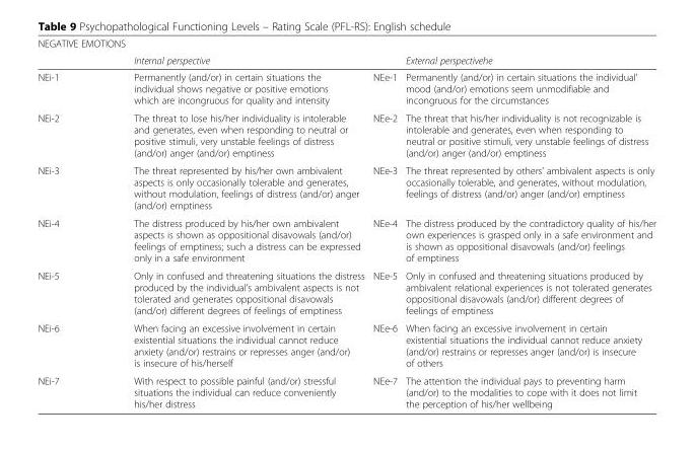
<table><thead><tr><td rowspan="2">NEGATIVE EMOTIONS</td><td rowspan="2">Internal perspective</td><td rowspan="2"></td><td rowspan="2">External perspectivehe</td></tr><tr></tr></thead><tbody><tr><td>NEi-1</td><td>Permanently (and/or) in certain situations the individual shows negative or positive emotions which are incongruous for quality and intensity</td><td>NEe-1</td><td>Permanently (and/or) in certain situations the individual’ mood (and/or) emotions seem unmodifiable and incongruous for the circumstances</td></tr><tr><td>NEi-2</td><td>The threat to lose his/her individuality is intolerable and generates, even when responding to neutral or positive stimuli, very unstable feelings of distress (and/or) anger (and/or) emptiness</td><td>NEe-2</td><td>The threat that his/her individuality is not recognizable is intolerable and generates, even when responding to neutral or positive stimuli, very unstable feelings of distress (and/or) anger (and/or) emptiness</td></tr><tr><td>NEi-3</td><td>The threat represented by his/her own ambivalent aspects is only occasionally tolerable and generates, without modulation, feelings of distress (and/or) anger (and/or) emptiness</td><td>NEe-3</td><td>The threat represented by others’ ambivalent aspects is only occasionally tolerable, and generates, without modulation, feelings of distress (and/or) anger (and/or) emptiness</td></tr><tr><td>NEi-4</td><td>The distress produced by his/her own ambivalent aspects is shown as oppositional disavowals (and/or) feelings of emptiness; such a distress can be expressed only in a safe environment</td><td>NEe-4</td><td>The distress produced by the contradictory quality of his/her own experiences is grasped only in a safe environment and is shown as oppositional disavowals (and/or) feelings of emptiness</td></tr><tr><td>NEi-5</td><td>Only in confused and threatening situations the distress produced by the individual’s ambivalent aspects is not tolerated and generates oppositional disavowals (and/or) different degrees of feelings of emptiness</td><td>NEe-5</td><td>Only in confused and threatening situations produced by ambivalent relational experiences is not tolerated generates oppositional disavowals (and/or) different degrees of feelings of emptiness</td></tr><tr><td>NEi-6</td><td>When facing an excessive involvement in certain existential situations the individual cannot reduce anxiety (and/or) restrains or represses anger (and/or) is insecure of his/herself</td><td>NEe-6</td><td>When facing an excessive involvement in certain existential situations the individual cannot reduce anxiety (and/or) restrains or represses anger (and/or) is insecure of others</td></tr><tr><td>NEi-7</td><td>With respect to possible painful (and/or) stressful situations the individual can reduce conveniently his/her distress</td><td>NEe-7</td><td>The attention the individual pays to preventing harm (and/or) to the modalities to cope with it does not limit the perception of his/her wellbeing</td></tr></tbody></table>